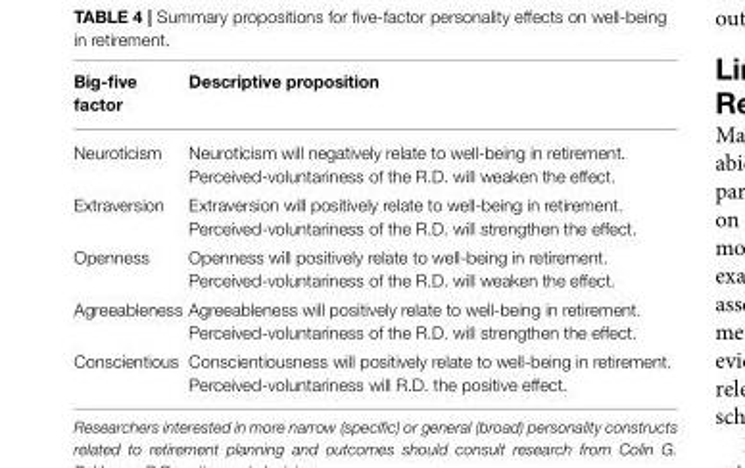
<table><thead><tr><td>Big-five factor</td><td>Descriptive proposition</td></tr></thead><tbody><tr><td>Neuroticism</td><td>Neuroticism will negatively relate to well-being in retirement. Perceived-voluntariness of the R.D. will weaken the effect.</td></tr><tr><td>Extraversion</td><td>Extraversion will positively relate to well-being in retirement. Perceived-voluntariness of the R.D. will strengthen the effect.</td></tr><tr><td>Openness</td><td>Openness will positively relate to well-being in retirement. Perceived-voluntariness of the R.D. will weaken the effect.</td></tr><tr><td>Agreeableness</td><td>Agreeableness will positively relate to well-being in retirement. Perceived-voluntariness of the R.D. will strengthen the effect.</td></tr><tr><td>Conscientious</td><td>Conscientiousness will positively relate to well-being in retirement. Perceived-voluntariness will R.D. the positive effect.</td></tr></tbody></table>